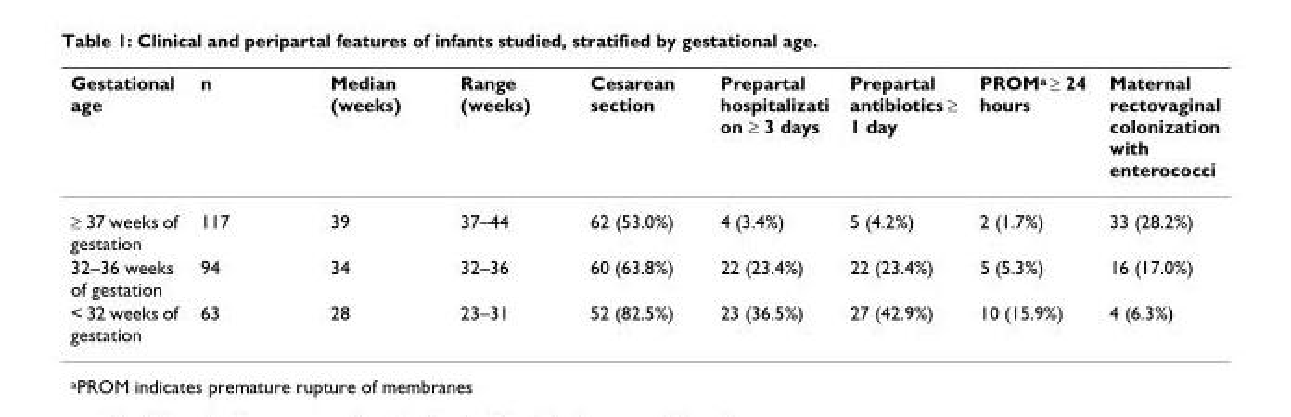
<table><thead><tr><td>Gestational age</td><td>n</td><td>Median (weeks)</td><td>Range (weeks)</td><td>Cesarean section</td><td>Prepartal hospitalizati on ≥ 3 days</td><td>Prepartal antibiotics ≥ 1 day</td><td>PROM<sup>a</sup> ≥ 24 hours</td><td>Maternal rectovaginal colonization with enterococci</td></tr></thead><tbody><tr><td>≥ 37 weeks of gestation</td><td>117</td><td>39</td><td>37–44</td><td>62 (53.0%)</td><td>4 (3.4%)</td><td>5 (4.2%)</td><td>2 (1.7%)</td><td>33 (28.2%)</td></tr><tr><td>32–36 weeks of gestation</td><td>94</td><td>34</td><td>32–36</td><td>60 (63.8%)</td><td>22 (23.4%)</td><td>22 (23.4%)</td><td>5 (5.3%)</td><td>16 (17.0%)</td></tr><tr><td>&lt; 32 weeks of gestation</td><td>63</td><td>28</td><td>23–31</td><td>52 (82.5%)</td><td>23 (36.5%)</td><td>27 (42.9%)</td><td>10 (15.9%)</td><td>4 (6.3%)</td></tr></tbody></table>